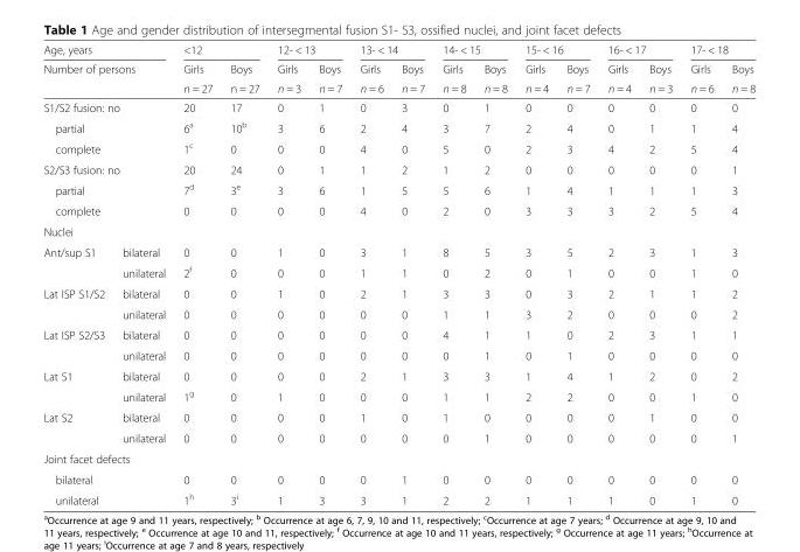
<table><thead><tr><td rowspan="3" colspan="2">Age, years Number of persons</td><td colspan="2">&lt;12</td><td colspan="2">12- &lt; 13</td><td colspan="2">13- &lt; 14</td><td colspan="2">14- &lt; 15</td><td colspan="2">15- &lt; 16</td><td colspan="2">16- &lt; 17</td><td colspan="2">17- &lt; 18</td></tr><tr><td rowspan="2">Girls n = 27</td><td rowspan="2">Boys n = 27</td><td rowspan="2">Girls n = 3</td><td rowspan="2">Boys n = 7</td><td rowspan="2">Girls n = 6</td><td rowspan="2">Boys n = 7</td><td rowspan="2">Girls n = 8</td><td rowspan="2">Boys n = 8</td><td rowspan="2">Girls n = 4</td><td rowspan="2">Boys n = 7</td><td rowspan="2">Girls n = 4</td><td rowspan="2">Boys n = 3</td><td rowspan="2">Girls n = 6</td><td rowspan="2">Boys n = 8</td></tr><tr></tr></thead><tbody><tr><td colspan="2">S1/S2 fusion: no</td><td>20</td><td>17</td><td>0</td><td>1</td><td>0</td><td>3</td><td>0</td><td>1</td><td>0</td><td>0</td><td>0</td><td>0</td><td>0</td><td>0</td></tr><tr><td colspan="2">partial</td><td>6<sup>a</sup></td><td>10<sup>b</sup></td><td>3</td><td>6</td><td>2</td><td>4</td><td>3</td><td>7</td><td>2</td><td>4</td><td>0</td><td>1</td><td>1</td><td>4</td></tr><tr><td colspan="2">complete</td><td>1<sup>c</sup></td><td>0</td><td>0</td><td>0</td><td>4</td><td>0</td><td>5</td><td>0</td><td>2</td><td>3</td><td>4</td><td>2</td><td>5</td><td>4</td></tr><tr><td colspan="2">S2/S3 fusion: no</td><td>20</td><td>24</td><td>0</td><td>1</td><td>1</td><td>2</td><td>1</td><td>2</td><td>0</td><td>0</td><td>0</td><td>0</td><td>0</td><td>1</td></tr><tr><td colspan="2">partial</td><td>7<sup>d</sup></td><td>3<sup>e</sup></td><td>3</td><td>6</td><td>1</td><td>5</td><td>5</td><td>6</td><td>1</td><td>4</td><td>1</td><td>1</td><td>1</td><td>3</td></tr><tr><td colspan="2">complete</td><td>0</td><td>0</td><td>0</td><td>0</td><td>4</td><td>0</td><td>2</td><td>0</td><td>3</td><td>3</td><td>3</td><td>2</td><td>5</td><td>4</td></tr><tr><td colspan="16">Nuclei</td></tr><tr><td rowspan="2">Ant/sup S1</td><td>bilateral</td><td>0</td><td>0</td><td>1</td><td>0</td><td>3</td><td>1</td><td>8</td><td>5</td><td>3</td><td>5</td><td>2</td><td>3</td><td>1</td><td>3</td></tr><tr><td>unilateral</td><td>2<sup>f</sup></td><td>0</td><td>0</td><td>0</td><td>1</td><td>1</td><td>0</td><td>2</td><td>0</td><td>1</td><td>0</td><td>0</td><td>1</td><td>0</td></tr><tr><td rowspan="2">Lat ISP S1/S2</td><td>bilateral</td><td>0</td><td>0</td><td>1</td><td>0</td><td>2</td><td>1</td><td>3</td><td>3</td><td>0</td><td>3</td><td>2</td><td>1</td><td>1</td><td>2</td></tr><tr><td>unilateral</td><td>0</td><td>0</td><td>0</td><td>0</td><td>0</td><td>0</td><td>1</td><td>1</td><td>3</td><td>2</td><td>0</td><td>0</td><td>0</td><td>2</td></tr><tr><td rowspan="2">Lat ISP S2/S3</td><td>bilateral</td><td>0</td><td>0</td><td>0</td><td>0</td><td>0</td><td>0</td><td>4</td><td>1</td><td>1</td><td>0</td><td>2</td><td>3</td><td>1</td><td>1</td></tr><tr><td>unilateral</td><td>0</td><td>0</td><td>0</td><td>0</td><td>0</td><td>0</td><td>0</td><td>1</td><td>0</td><td>1</td><td>0</td><td>0</td><td>0</td><td>0</td></tr><tr><td rowspan="2">Lat S1</td><td>bilateral</td><td>0</td><td>0</td><td>0</td><td>0</td><td>2</td><td>1</td><td>3</td><td>3</td><td>1</td><td>4</td><td>1</td><td>2</td><td>0</td><td>2</td></tr><tr><td>unilateral</td><td>1<sup>g</sup></td><td>0</td><td>1</td><td>0</td><td>0</td><td>0</td><td>1</td><td>1</td><td>2</td><td>2</td><td>0</td><td>0</td><td>1</td><td>0</td></tr><tr><td rowspan="2">Lat S2</td><td>bilateral</td><td>0</td><td>0</td><td>0</td><td>0</td><td>1</td><td>0</td><td>1</td><td>0</td><td>0</td><td>0</td><td>0</td><td>1</td><td>0</td><td>0</td></tr><tr><td>unilateral</td><td>0</td><td>0</td><td>0</td><td>0</td><td>0</td><td>0</td><td>0</td><td>1</td><td>0</td><td>0</td><td>0</td><td>0</td><td>0</td><td>1</td></tr><tr><td colspan="16">Joint facet defects</td></tr><tr><td colspan="2">bilateral</td><td>0</td><td>0</td><td>0</td><td>0</td><td>0</td><td>1</td><td>0</td><td>0</td><td>0</td><td>0</td><td>0</td><td>0</td><td>0</td><td>0</td></tr><tr><td colspan="2">unilateral</td><td>1<sup>h</sup></td><td>3<sup>i</sup></td><td>1</td><td>3</td><td>3</td><td>1</td><td>2</td><td>2</td><td>1</td><td>1</td><td>1</td><td>0</td><td>1</td><td>0</td></tr></tbody></table>